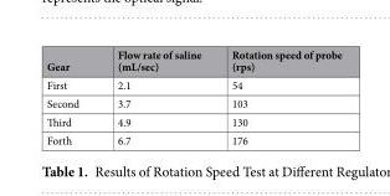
<table><thead><tr><td>Gear</td><td>Flow rate of saline (mL/sec)</td><td>Rotation speed of probe (rps)</td></tr></thead><tbody><tr><td>First</td><td>2.1</td><td>54</td></tr><tr><td>Second</td><td>3.7</td><td>103</td></tr><tr><td>Third</td><td>4.9</td><td>130</td></tr><tr><td>Forth</td><td>6.7</td><td>176</td></tr></tbody></table>